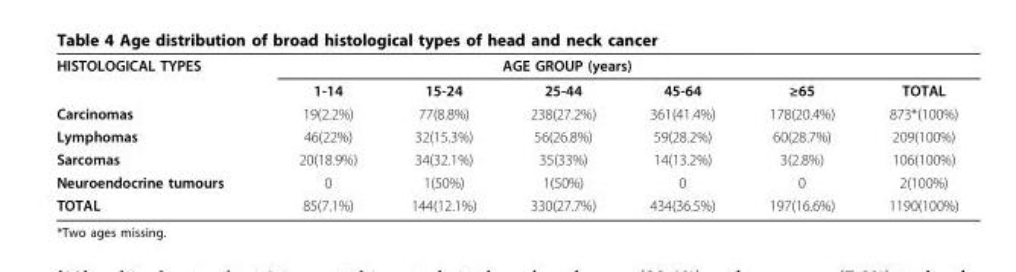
<table><tbody><tr><td rowspan="2">HISTOLOGICAL TYPES</td><td colspan="5">AGE GROUP (years)</td><td></td></tr><tr><td>1-14</td><td>15-24</td><td>25-44</td><td>45-64</td><td>≥65</td><td>TOTAL</td></tr><tr><td>Carcinomas</td><td>19(2.2%)</td><td>77(8.8%)</td><td>238(27.2%)</td><td>361(41.4%)</td><td>178(20.4%)</td><td>873*(100%)</td></tr><tr><td>Lymphomas</td><td>46(22%)</td><td>32(15.3%)</td><td>56(26.8%)</td><td>59(28.2%)</td><td>60(28.7%)</td><td>209(100%)</td></tr><tr><td>Sarcomas</td><td>20(18.9%)</td><td>34(32.1%)</td><td>35(33%)</td><td>14(13.2%)</td><td>3(2.8%)</td><td>106(100%)</td></tr><tr><td>Neuroendocrine tumours</td><td>0</td><td>1(50%)</td><td>1(50%)</td><td>0</td><td>0</td><td>2(100%)</td></tr><tr><td>TOTAL</td><td>85(7.1%)</td><td>144(12.1%)</td><td>330(27.7%)</td><td>434(36.5%)</td><td>197(16.6%)</td><td>1190(100%)</td></tr></tbody></table>